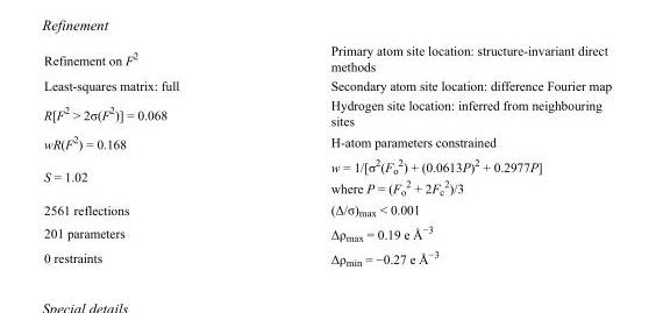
<table><tbody><tr><td>Refinement on F<sup>2</sup></td><td>Primary atom site location: structure-invariant direct methods</td></tr><tr><td>Least-squares matrix: full</td><td>Secondary atom site location: difference Fourier map</td></tr><tr><td>R[F<sup>2</sup> &gt; 2σ(F<sup>2</sup>)] = 0.068</td><td>Hydrogen site location: inferred from neighbouring sites</td></tr><tr><td>wR(F<sup>2</sup>) = 0.168</td><td>H-atom parameters constrained</td></tr><tr><td>S = 1.02</td><td>w = 1/[σ<sup>2</sup>(F<sub>o</sub> <sup>2</sup>) + (0.0613P)<sup>2</sup> + 0.2977P] where P = (F<sub>o</sub> <sup>2</sup> + 2F<sub>c</sub> <sup>2</sup>)/3</td></tr><tr><td>2561 reflections</td><td>(Δ/σ)<sub>max</sub> &lt; 0.001</td></tr><tr><td>201 parameters</td><td>Δρ<sub>max</sub> = 0.19 e Å<sup>−3</sup></td></tr><tr><td>0 restraints</td><td>Δρ<sub>min</sub> = −0.27 e Å<sup>−3</sup></td></tr></tbody></table>